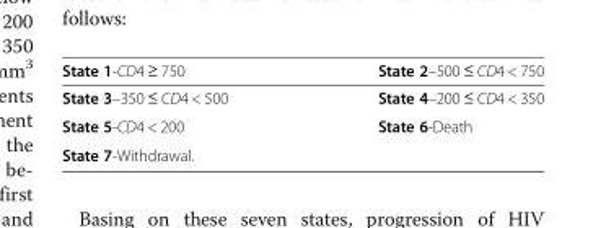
<table><thead><tr><td>State 1-CD4 ≥ 750</td><td>State 2–500 ≤ CD4 &lt; 750</td></tr></thead><tbody><tr><td>State 3–350 ≤ CD4 &lt; 500</td><td>State 4–200 ≤ CD4 &lt; 350</td></tr><tr><td>State 5-CD4 &lt; 200</td><td>State 6-Death</td></tr><tr><td>State 7-Withdrawal.</td><td></td></tr></tbody></table>